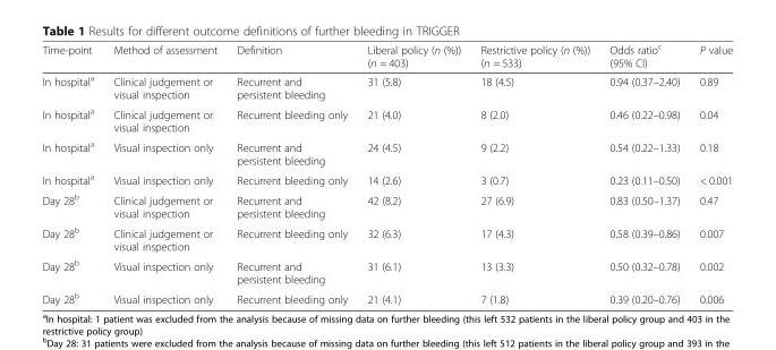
<table><thead><tr><td>Time-point</td><td>Method of assessment</td><td>Definition</td><td>Liberal policy (n (%)) (n = 403)</td><td>Restrictive policy (n (%)) (n = 533)</td><td>Odds ratio<sup>c</sup> (95% CI)</td><td>P value</td></tr></thead><tbody><tr><td>In hospital<sup>a</sup></td><td>Clinical judgement or visual inspection</td><td>Recurrent and persistent bleeding</td><td>31 (5.8)</td><td>18 (4.5)</td><td>0.94 (0.37–2.40)</td><td>0.89</td></tr><tr><td>In hospital<sup>a</sup></td><td>Clinical judgement or visual inspection</td><td>Recurrent bleeding only</td><td>21 (4.0)</td><td>8 (2.0)</td><td>0.46 (0.22–0.98)</td><td>0.04</td></tr><tr><td>In hospital<sup>a</sup></td><td>Visual inspection only</td><td>Recurrent and persistent bleeding</td><td>24 (4.5)</td><td>9 (2.2)</td><td>0.54 (0.22–1.33)</td><td>0.18</td></tr><tr><td>In hospital<sup>a</sup></td><td>Visual inspection only</td><td>Recurrent bleeding only</td><td>14 (2.6)</td><td>3 (0.7)</td><td>0.23 (0.11–0.50)</td><td>&lt; 0.001</td></tr><tr><td>Day 28<sup>b</sup></td><td>Clinical judgement or visual inspection</td><td>Recurrent and persistent bleeding</td><td>42 (8.2)</td><td>27 (6.9)</td><td>0.83 (0.50–1.37)</td><td>0.47</td></tr><tr><td>Day 28<sup>b</sup></td><td>Clinical judgement or visual inspection</td><td>Recurrent bleeding only</td><td>32 (6.3)</td><td>17 (4.3)</td><td>0.58 (0.39–0.86)</td><td>0.007</td></tr><tr><td>Day 28<sup>b</sup></td><td>Visual inspection only</td><td>Recurrent and persistent bleeding</td><td>31 (6.1)</td><td>13 (3.3)</td><td>0.50 (0.32–0.78)</td><td>0.002</td></tr><tr><td>Day 28<sup>b</sup></td><td>Visual inspection only</td><td>Recurrent bleeding only</td><td>21 (4.1)</td><td>7 (1.8)</td><td>0.39 (0.20–0.76)</td><td>0.006</td></tr></tbody></table>